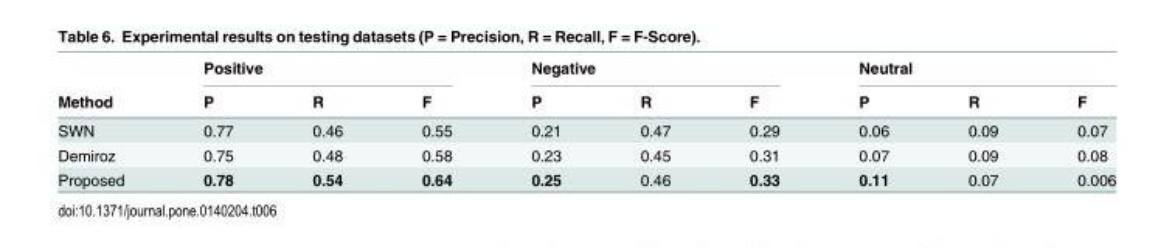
<table><thead><tr><td rowspan="2">Method</td><td colspan="3">Positive</td><td colspan="3">Negative</td><td colspan="3">Neutral</td></tr><tr><td>P</td><td>R</td><td>F</td><td>P</td><td>R</td><td>F</td><td>P</td><td>R</td><td>F</td></tr></thead><tbody><tr><td>SWN</td><td>0.77</td><td>0.46</td><td>0.55</td><td>0.21</td><td>0.47</td><td>0.29</td><td>0.06</td><td>0.09</td><td>0.07</td></tr><tr><td>Demiroz</td><td>0.75</td><td>0.48</td><td>0.58</td><td>0.23</td><td>0.45</td><td>0.31</td><td>0.07</td><td>0.09</td><td>0.08</td></tr><tr><td>Proposed</td><td>0.78</td><td>0.54</td><td>0.64</td><td>0.25</td><td>0.46</td><td>0.33</td><td>0.11</td><td>0.07</td><td>0.006</td></tr></tbody></table>